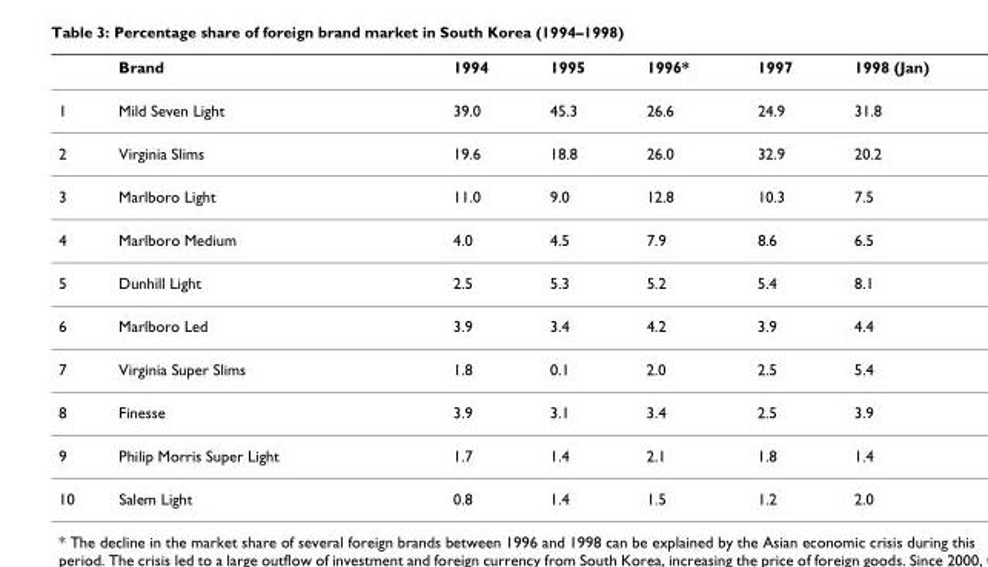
<table><thead><tr><td></td><td>Brand</td><td>1994</td><td>1995</td><td>1996*</td><td>1997</td><td>1998 (Jan)</td></tr></thead><tbody><tr><td>1</td><td>Mild Seven Light</td><td>39.0</td><td>45.3</td><td>26.6</td><td>24.9</td><td>31.8</td></tr><tr><td>2</td><td>Virginia Slims</td><td>19.6</td><td>18.8</td><td>26.0</td><td>32.9</td><td>20.2</td></tr><tr><td>3</td><td>Marlboro Light</td><td>11.0</td><td>9.0</td><td>12.8</td><td>10.3</td><td>7.5</td></tr><tr><td>4</td><td>Marlboro Medium</td><td>4.0</td><td>4.5</td><td>7.9</td><td>8.6</td><td>6.5</td></tr><tr><td>5</td><td>Dunhill Light</td><td>2.5</td><td>5.3</td><td>5.2</td><td>5.4</td><td>8.1</td></tr><tr><td>6</td><td>Marlboro Led</td><td>3.9</td><td>3.4</td><td>4.2</td><td>3.9</td><td>4.4</td></tr><tr><td>7</td><td>Virginia Super Slims</td><td>1.8</td><td>0.1</td><td>2.0</td><td>2.5</td><td>5.4</td></tr><tr><td>8</td><td>Finesse</td><td>3.9</td><td>3.1</td><td>3.4</td><td>2.5</td><td>3.9</td></tr><tr><td>9</td><td>Philip Morris Super Light</td><td>1.7</td><td>1.4</td><td>2.1</td><td>1.8</td><td>1.4</td></tr><tr><td>10</td><td>Salem Light</td><td>0.8</td><td>1.4</td><td>1.5</td><td>1.2</td><td>2.0</td></tr></tbody></table>